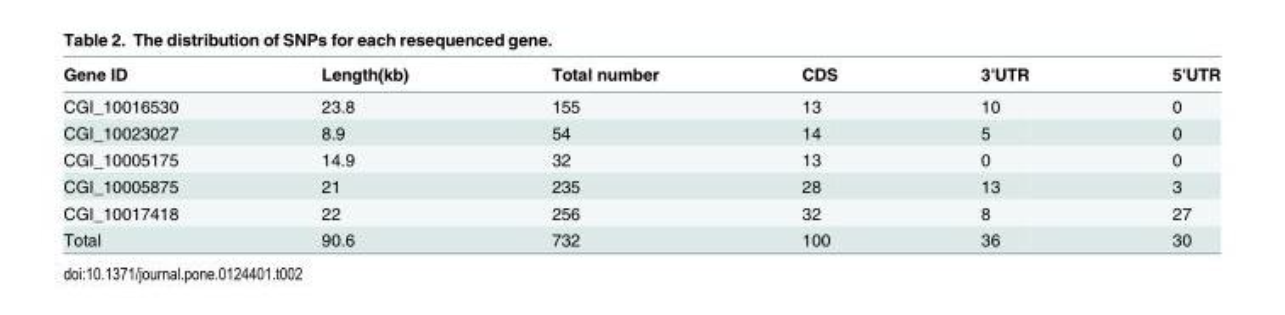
<table><thead><tr><td>Gene ID</td><td>Length(kb)</td><td>Total number</td><td>CDS</td><td>3&#x27;UTR</td><td>5&#x27;UTR</td></tr></thead><tbody><tr><td>CGI_10016530</td><td>23.8</td><td>155</td><td>13</td><td>10</td><td>0</td></tr><tr><td>CGI_10023027</td><td>8.9</td><td>54</td><td>14</td><td>5</td><td>0</td></tr><tr><td>CGI_10005175</td><td>14.9</td><td>32</td><td>13</td><td>0</td><td>0</td></tr><tr><td>CGI_10005875</td><td>21</td><td>235</td><td>28</td><td>13</td><td>3</td></tr><tr><td>CGI_10017418</td><td>22</td><td>256</td><td>32</td><td>8</td><td>27</td></tr><tr><td>Total</td><td>90.6</td><td>732</td><td>100</td><td>36</td><td>30</td></tr></tbody></table>